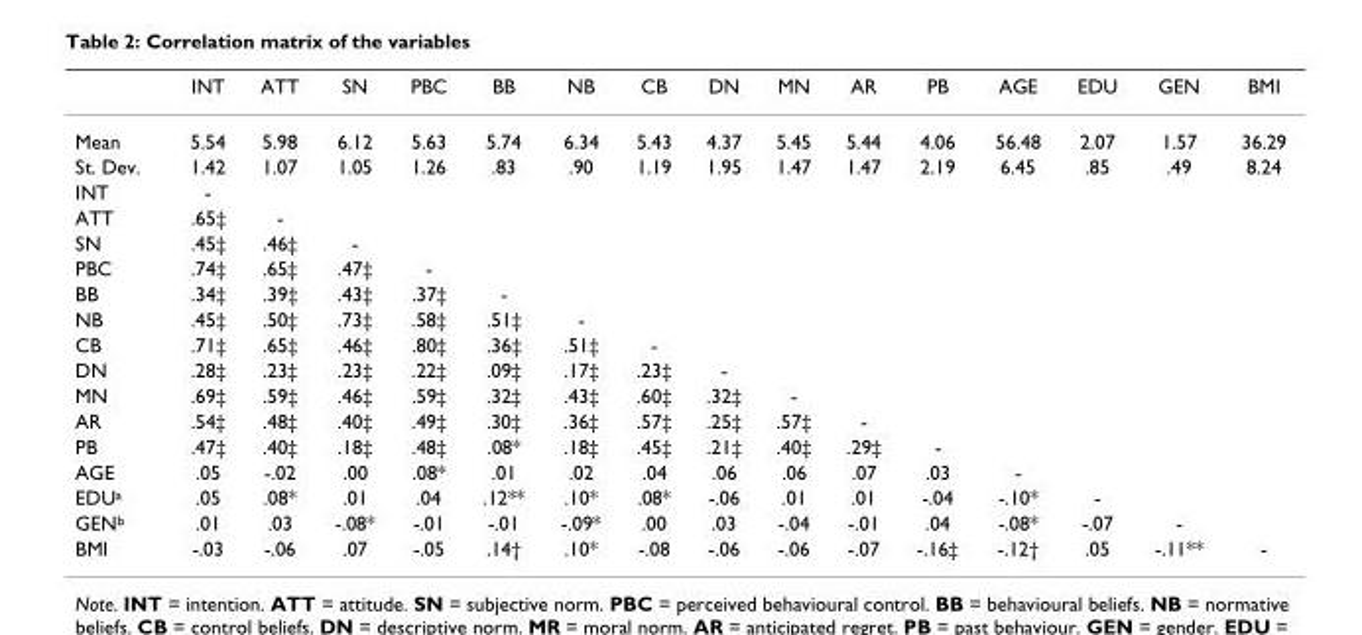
<table><thead><tr><td></td><td>INT</td><td>ATT</td><td>SN</td><td>PBC</td><td>BB</td><td>NB</td><td>CB</td><td>DN</td><td>MN</td><td>AR</td><td>PB</td><td>AGE</td><td>EDU</td><td>GEN</td><td>BMI</td></tr></thead><tbody><tr><td>Mean</td><td>5.54</td><td>5.98</td><td>6.12</td><td>5.63</td><td>5.74</td><td>6.34</td><td>5.43</td><td>4.37</td><td>5.45</td><td>5.44</td><td>4.06</td><td>56.48</td><td>2.07</td><td>1.57</td><td>36.29</td></tr><tr><td>St. Dev.</td><td>1.42</td><td>1.07</td><td>1.05</td><td>1.26</td><td>.83</td><td>.90</td><td>1.19</td><td>1.95</td><td>1.47</td><td>1.47</td><td>2.19</td><td>6.45</td><td>.85</td><td>.49</td><td>8.24</td></tr><tr><td>INT</td><td>-</td><td></td><td></td><td></td><td></td><td></td><td></td><td></td><td></td><td></td><td></td><td></td><td></td><td></td><td></td></tr><tr><td>ATT</td><td>.65‡</td><td>-</td><td></td><td></td><td></td><td></td><td></td><td></td><td></td><td></td><td></td><td></td><td></td><td></td><td></td></tr><tr><td>SN</td><td>.45‡</td><td>.46‡</td><td>-</td><td></td><td></td><td></td><td></td><td></td><td></td><td></td><td></td><td></td><td></td><td></td><td></td></tr><tr><td>PBC</td><td>.74‡</td><td>.65‡</td><td>.47‡</td><td>-</td><td></td><td></td><td></td><td></td><td></td><td></td><td></td><td></td><td></td><td></td><td></td></tr><tr><td>BB</td><td>.34‡</td><td>.39‡</td><td>.43‡</td><td>.37‡</td><td>-</td><td></td><td></td><td></td><td></td><td></td><td></td><td></td><td></td><td></td><td></td></tr><tr><td>NB</td><td>.45‡</td><td>.50‡</td><td>.73‡</td><td>.58‡</td><td>.51‡</td><td>-</td><td></td><td></td><td></td><td></td><td></td><td></td><td></td><td></td><td></td></tr><tr><td>CB</td><td>.71‡</td><td>.65‡</td><td>.46‡</td><td>.80‡</td><td>.36‡</td><td>.51‡</td><td>-</td><td></td><td></td><td></td><td></td><td></td><td></td><td></td><td></td></tr><tr><td>DN</td><td>.28‡</td><td>.23‡</td><td>.23‡</td><td>.22‡</td><td>.09‡</td><td>.17‡</td><td>.23‡</td><td>-</td><td></td><td></td><td></td><td></td><td></td><td></td><td></td></tr><tr><td>MN</td><td>.69‡</td><td>.59‡</td><td>.46‡</td><td>.59‡</td><td>.32‡</td><td>.43‡</td><td>.60‡</td><td>.32‡</td><td>-</td><td></td><td></td><td></td><td></td><td></td><td></td></tr><tr><td>AR</td><td>.54‡</td><td>.48‡</td><td>.40‡</td><td>.49‡</td><td>.30‡</td><td>.36‡</td><td>.57‡</td><td>.25‡</td><td>.57‡</td><td>-</td><td></td><td></td><td></td><td></td><td></td></tr><tr><td>PB</td><td>.47‡</td><td>.40‡</td><td>.18‡</td><td>.48‡</td><td>.08*</td><td>.18‡</td><td>.45‡</td><td>.21‡</td><td>.40‡</td><td>.29‡</td><td>-</td><td></td><td></td><td></td><td></td></tr><tr><td>AGE</td><td>.05</td><td>-.02</td><td>.00</td><td>.08*</td><td>.01</td><td>.02</td><td>.04</td><td>.06</td><td>.06</td><td>.07</td><td>.03</td><td>-</td><td></td><td></td><td></td></tr><tr><td>EDU<sup>a</sup></td><td>.05</td><td>.08*</td><td>.01</td><td>.04</td><td>.12**</td><td>.10*</td><td>.08*</td><td>-.06</td><td>.01</td><td>.01</td><td>-.04</td><td>-.10*</td><td>-</td><td></td><td></td></tr><tr><td>GEN<sup>b</sup></td><td>.01</td><td>.03</td><td>-.08*</td><td>-.01</td><td>-.01</td><td>-.09*</td><td>.00</td><td>.03</td><td>-.04</td><td>-.01</td><td>.04</td><td>-.08*</td><td>-.07</td><td>-</td><td></td></tr><tr><td>BMI</td><td>-.03</td><td>-.06</td><td>.07</td><td>-.05</td><td>.14†</td><td>.10*</td><td>-.08</td><td>-.06</td><td>-.06</td><td>-.07</td><td>-.16‡</td><td>-.12†</td><td>.05</td><td>-.11**</td><td>-</td></tr></tbody></table>